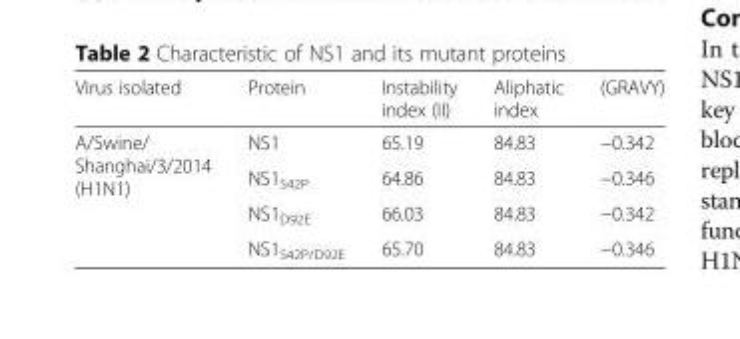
<table><thead><tr><td>Virus isolated</td><td>Protein</td><td>Instability index (II)</td><td>Aliphatic index</td><td>(GRAVY)</td></tr></thead><tbody><tr><td rowspan="4">A/Swine/ Shanghai/3/2014 (H1N1)</td><td>NS1</td><td>65.19</td><td>84.83</td><td>−0.342</td></tr><tr><td>NS1<sub>S42P</sub></td><td>64.86</td><td>84.83</td><td>−0.346</td></tr><tr><td>NS1<sub>D92E</sub></td><td>66.03</td><td>84.83</td><td>−0.342</td></tr><tr><td>NS1<sub>S42P/D92E</sub></td><td>65.70</td><td>84.83</td><td>−0.346</td></tr></tbody></table>